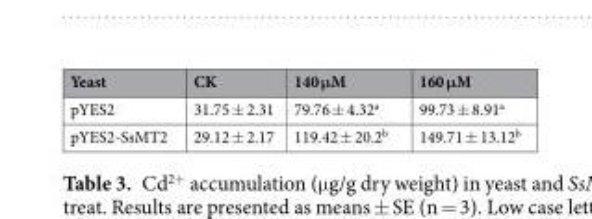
<table><thead><tr><td>Yeast</td><td>CK</td><td>140 μM</td><td>160 μM</td></tr></thead><tbody><tr><td>pYES2</td><td>31.75 ± 2.31</td><td>79.76 ± 4.32<sup>a</sup></td><td>99.73 ± 8.91<sup>a</sup></td></tr><tr><td>pYES2-SsMT2</td><td>29.12 ± 2.17</td><td>119.42 ± 20.2<sup>b</sup></td><td>149.71 ± 13.12<sup>b</sup></td></tr></tbody></table>